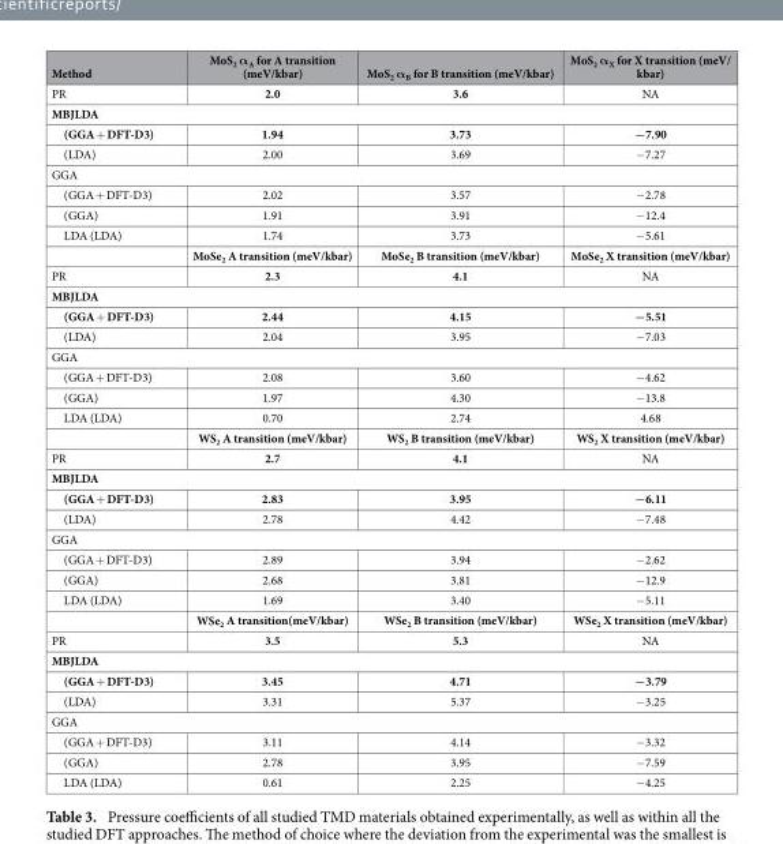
<table><thead><tr><td>Method</td><td>MoS<sub>2</sub> α<sub>A</sub> for A transition (meV/kbar)</td><td>MoS<sub>2</sub> α<sub>B</sub> for B transition (meV/kbar)</td><td>MoS<sub>2</sub> α<sub>X</sub> for X transition (meV/ kbar)</td></tr></thead><tbody><tr><td>PR</td><td>2.0</td><td>3.6</td><td>NA</td></tr><tr><td colspan="4">MBJLDA</td></tr><tr><td>(GGA + DFT-D3)</td><td>1.94</td><td>3.73</td><td>−7.90</td></tr><tr><td>(LDA)</td><td>2.00</td><td>3.69</td><td>− 7.27</td></tr><tr><td colspan="4">GGA</td></tr><tr><td>(GGA + DFT-D3)</td><td>2.02</td><td>3.57</td><td>− 2.78</td></tr><tr><td>(GGA)</td><td>1.91</td><td>3.91</td><td>− 12.4</td></tr><tr><td rowspan="2">LDA (LDA)</td><td>1.74</td><td>3.73</td><td>− 5.61</td></tr><tr><td>MoSe2 A transition (meV/kbar)</td><td>MoSe<sub>2</sub> B transition (meV/kbar)</td><td>MoSe2 X transition (meV/kbar)</td></tr><tr><td>PR</td><td>2.3</td><td>4.1</td><td>NA</td></tr><tr><td colspan="4">MBJLDA</td></tr><tr><td>(GGA + DFT-D3)</td><td>2.44</td><td>4.15</td><td>−5.51</td></tr><tr><td>(LDA)</td><td>2.04</td><td>3.95</td><td>− 7.03</td></tr><tr><td colspan="4">GGA</td></tr><tr><td>(GGA + DFT-D3)</td><td>2.08</td><td>3.60</td><td>− 4.62</td></tr><tr><td>(GGA)</td><td>1.97</td><td>4.30</td><td>− 13.8</td></tr><tr><td rowspan="2">LDA (LDA)</td><td>0.70</td><td>2.74</td><td>4.68</td></tr><tr><td>WS2 A transition (meV/kbar)</td><td>WS<sub>2</sub> B transition (meV/kbar)</td><td>WS2 X transition (meV/kbar)</td></tr><tr><td>PR</td><td>2.7</td><td>4.1</td><td>NA</td></tr><tr><td colspan="4">MBJLDA</td></tr><tr><td>(GGA + DFT-D3)</td><td>2.83</td><td>3.95</td><td>−6.11</td></tr><tr><td>(LDA)</td><td>2.78</td><td>4.42</td><td>− 7.48</td></tr><tr><td colspan="4">GGA</td></tr><tr><td>(GGA + DFT-D3)</td><td>2.89</td><td>3.94</td><td>− 2.62</td></tr><tr><td>(GGA)</td><td>2.68</td><td>3.81</td><td>− 12.9</td></tr><tr><td rowspan="2">LDA (LDA)</td><td>1.69</td><td>3.40</td><td>− 5.11</td></tr><tr><td>WSe2 A transition(meV/kbar)</td><td>WSe<sub>2</sub> B transition (meV/kbar)</td><td>WSe2 X transition (meV/kbar)</td></tr><tr><td>PR</td><td>3.5</td><td>5.3</td><td>NA</td></tr><tr><td colspan="4">MBJLDA</td></tr><tr><td>(GGA + DFT-D3)</td><td>3.45</td><td>4.71</td><td>−3.79</td></tr><tr><td>(LDA)</td><td>3.31</td><td>5.37</td><td>− 3.25</td></tr><tr><td colspan="4">GGA</td></tr><tr><td>(GGA + DFT-D3)</td><td>3.11</td><td>4.14</td><td>− 3.32</td></tr><tr><td>(GGA)</td><td>2.78</td><td>3.95</td><td>− 7.59</td></tr><tr><td>LDA (LDA)</td><td>0.61</td><td>2.25</td><td>− 4.25</td></tr></tbody></table>